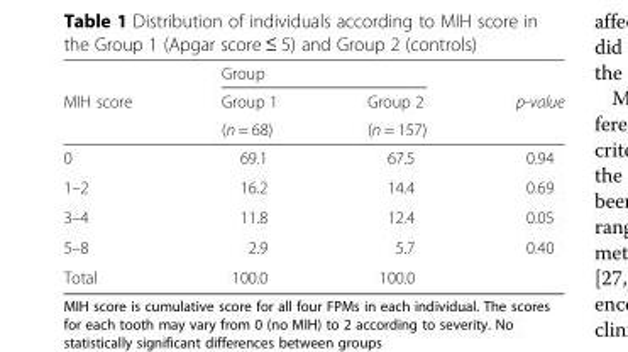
<table><thead><tr><td rowspan="3">MIH score</td><td colspan="2">Group</td><td rowspan="3">p-value</td></tr><tr><td rowspan="2">Group 1 (n = 68)</td><td rowspan="2">Group 2 (n = 157)</td></tr><tr></tr></thead><tbody><tr><td>0</td><td>69.1</td><td>67.5</td><td>0.94</td></tr><tr><td>1–2</td><td>16.2</td><td>14.4</td><td>0.69</td></tr><tr><td>3–4</td><td>11.8</td><td>12.4</td><td>0.05</td></tr><tr><td>5–8</td><td>2.9</td><td>5.7</td><td>0.40</td></tr><tr><td>Total</td><td>100.0</td><td>100.0</td><td></td></tr></tbody></table>